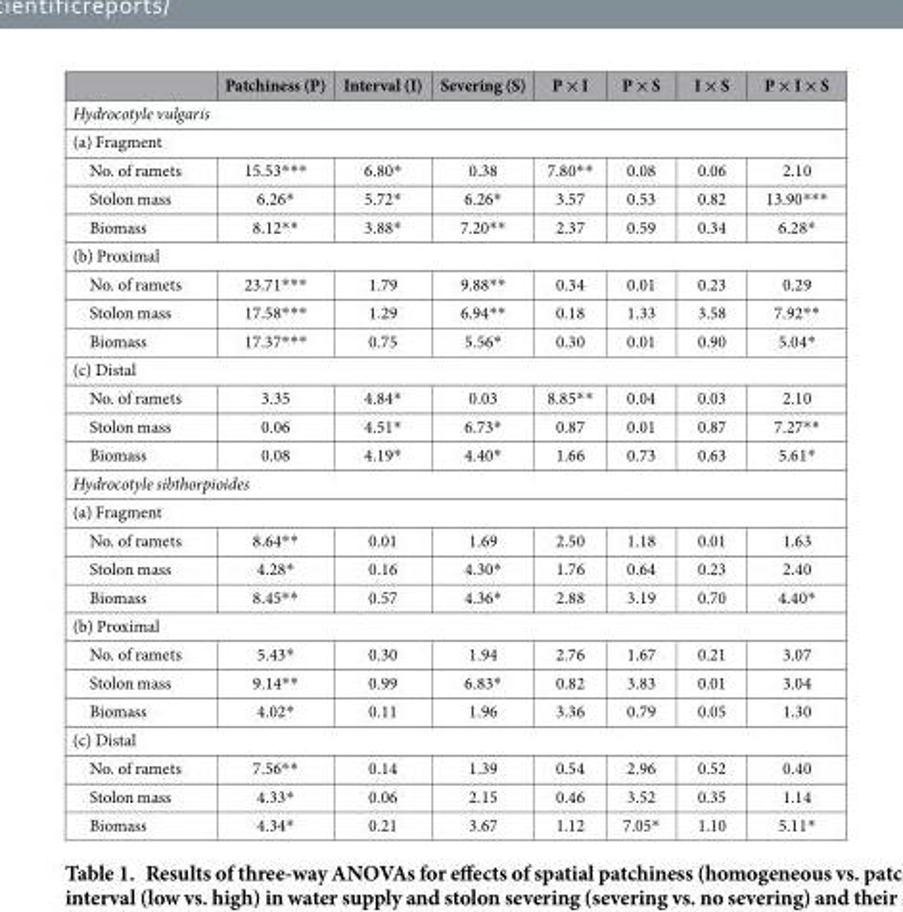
<table><thead><tr><td></td><td>Patchiness (P)</td><td>Interval (I)</td><td>Severing (S)</td><td>P × I</td><td>P × S</td><td>I × S</td><td>P × I × S</td></tr></thead><tbody><tr><td colspan="8">Hydrocotyle vulgaris</td></tr><tr><td colspan="8">(a) Fragment</td></tr><tr><td>No. of ramets</td><td>15.53***</td><td>6.80*</td><td>0.38</td><td>7.80**</td><td>0.08</td><td>0.06</td><td>2.10</td></tr><tr><td>Stolon mass</td><td>6.26*</td><td>5.72*</td><td>6.26*</td><td>3.57</td><td>0.53</td><td>0.82</td><td>13.90***</td></tr><tr><td>Biomass</td><td>8.12**</td><td>3.88*</td><td>7.20**</td><td>2.37</td><td>0.59</td><td>0.34</td><td>6.28*</td></tr><tr><td colspan="8">(b) Proximal</td></tr><tr><td>No. of ramets</td><td>23.71***</td><td>1.79</td><td>9.88**</td><td>0.34</td><td>0.01</td><td>0.23</td><td>0.29</td></tr><tr><td>Stolon mass</td><td>17.58***</td><td>1.29</td><td>6.94**</td><td>0.18</td><td>1.33</td><td>3.58</td><td>7.92**</td></tr><tr><td>Biomass</td><td>17.37***</td><td>0.75</td><td>5.56*</td><td>0.30</td><td>0.01</td><td>0.90</td><td>5.04*</td></tr><tr><td colspan="8">(c) Distal</td></tr><tr><td>No. of ramets</td><td>3.35</td><td>4.84*</td><td>0.03</td><td>8.85**</td><td>0.04</td><td>0.03</td><td>2.10</td></tr><tr><td>Stolon mass</td><td>0.06</td><td>4.51*</td><td>6.73*</td><td>0.87</td><td>0.01</td><td>0.87</td><td>7.27**</td></tr><tr><td>Biomass</td><td>0.08</td><td>4.19*</td><td>4.40*</td><td>1.66</td><td>0.73</td><td>0.63</td><td>5.61*</td></tr><tr><td colspan="8">Hydrocotyle sibthorpioides</td></tr><tr><td colspan="8">(a) Fragment</td></tr><tr><td>No. of ramets</td><td>8.64**</td><td>0.01</td><td>1.69</td><td>2.50</td><td>1.18</td><td>0.01</td><td>1.63</td></tr><tr><td>Stolon mass</td><td>4.28*</td><td>0.16</td><td>4.30*</td><td>1.76</td><td>0.64</td><td>0.23</td><td>2.40</td></tr><tr><td>Biomass</td><td>8.45**</td><td>0.57</td><td>4.36*</td><td>2.88</td><td>3.19</td><td>0.70</td><td>4.40*</td></tr><tr><td colspan="8">(b) Proximal</td></tr><tr><td>No. of ramets</td><td>5.43*</td><td>0.30</td><td>1.94</td><td>2.76</td><td>1.67</td><td>0.21</td><td>3.07</td></tr><tr><td>Stolon mass</td><td>9.14**</td><td>0.99</td><td>6.83*</td><td>0.82</td><td>3.83</td><td>0.01</td><td>3.04</td></tr><tr><td>Biomass</td><td>4.02*</td><td>0.11</td><td>1.96</td><td>3.36</td><td>0.79</td><td>0.05</td><td>1.30</td></tr><tr><td colspan="8">(c) Distal</td></tr><tr><td>No. of ramets</td><td>7.56**</td><td>0.14</td><td>1.39</td><td>0.54</td><td>2.96</td><td>0.52</td><td>0.40</td></tr><tr><td>Stolon mass</td><td>4.33*</td><td>0.06</td><td>2.15</td><td>0.46</td><td>3.52</td><td>0.35</td><td>1.14</td></tr><tr><td>Biomass</td><td>4.34*</td><td>0.21</td><td>3.67</td><td>1.12</td><td>7.05*</td><td>1.10</td><td>5.11*</td></tr></tbody></table>